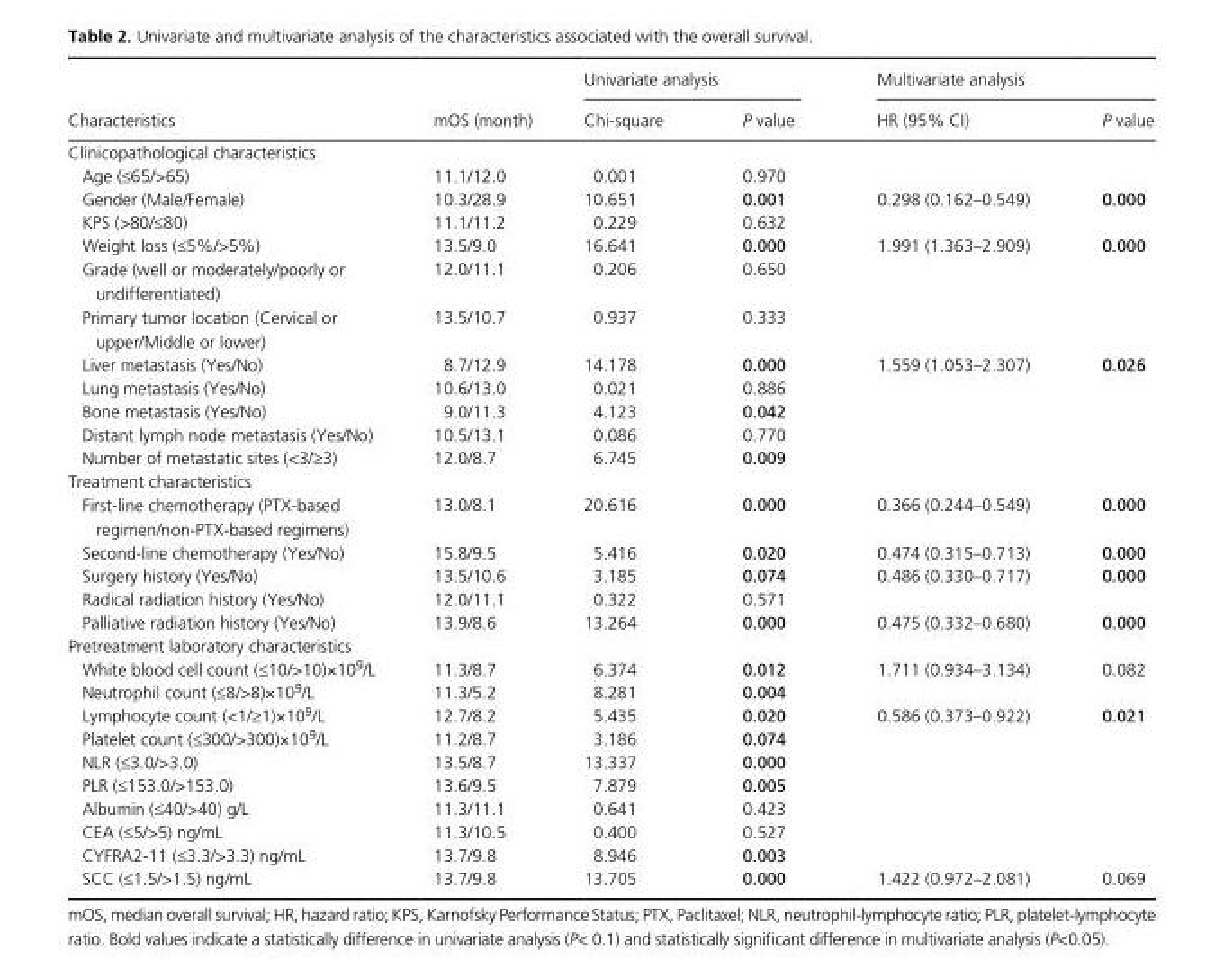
<table><thead><tr><td rowspan="2">Characteristics</td><td rowspan="2">mOS (month)</td><td colspan="2">Univariate analysis</td><td colspan="2">Multivariate analysis</td></tr><tr><td>Chi- square</td><td>P value</td><td>HR (95% CI)</td><td>P value</td></tr></thead><tbody><tr><td colspan="6">Clinicopathological characteristics</td></tr><tr><td>Age (≤65/&gt;65)</td><td>11.1/12.0</td><td>0.001</td><td>0.970</td><td></td><td></td></tr><tr><td>Gender (Male/Female)</td><td>10.3/28.9</td><td>10.651</td><td>0.001</td><td>0.298 (0.162–0.549)</td><td>0.000</td></tr><tr><td>KPS (&gt;80/≤80)</td><td>11.1/11.2</td><td>0.229</td><td>0.632</td><td></td><td></td></tr><tr><td>Weight loss (≤5%/&gt;5%)</td><td>13.5/9.0</td><td>16.641</td><td>0.000</td><td>1.991 (1.363–2.909)</td><td>0.000</td></tr><tr><td>Grade (well or moderately/poorly or undifferentiated)</td><td>12.0/11.1</td><td>0.206</td><td>0.650</td><td></td><td></td></tr><tr><td>Primary tumor location (Cervical or upper/Middle or lower)</td><td>13.5/10.7</td><td>0.937</td><td>0.333</td><td></td><td></td></tr><tr><td>Liver metastasis (Yes/No)</td><td>8.7/12.9</td><td>14.178</td><td>0.000</td><td>1.559 (1.053–2.307)</td><td>0.026</td></tr><tr><td>Lung metastasis (Yes/No)</td><td>10.6/13.0</td><td>0.021</td><td>0.886</td><td></td><td></td></tr><tr><td>Bone metastasis (Yes/No)</td><td>9.0/11.3</td><td>4.123</td><td>0.042</td><td></td><td></td></tr><tr><td>Distant lymph node metastasis (Yes/No)</td><td>10.5/13.1</td><td>0.086</td><td>0.770</td><td></td><td></td></tr><tr><td>Number of metastatic sites (&lt;3/≥3)</td><td>12.0/8.7</td><td>6.745</td><td>0.009</td><td></td><td></td></tr><tr><td colspan="6">Treatment characteristics</td></tr><tr><td>First- line chemotherapy (PTX- based regimen/non- PTX- based regimens)</td><td>13.0/8.1</td><td>20.616</td><td>0.000</td><td>0.366 (0.244–0.549)</td><td>0.000</td></tr><tr><td>Second- line chemotherapy (Yes/No)</td><td>15.8/9.5</td><td>5.416</td><td>0.020</td><td>0.474 (0.315–0.713)</td><td>0.000</td></tr><tr><td>Surgery history (Yes/No)</td><td>13.5/10.6</td><td>3.185</td><td>0.074</td><td>0.486 (0.330–0.717)</td><td>0.000</td></tr><tr><td>Radical radiation history (Yes/No)</td><td>12.0/11.1</td><td>0.322</td><td>0.571</td><td></td><td></td></tr><tr><td>Palliative radiation history (Yes/No)</td><td>13.9/8.6</td><td>13.264</td><td>0.000</td><td>0.475 (0.332–0.680)</td><td>0.000</td></tr><tr><td colspan="6">Pretreatment laboratory characteristics</td></tr><tr><td>White blood cell count (≤10/&gt;10)×10<sup>9</sup>/L</td><td>11.3/8.7</td><td>6.374</td><td>0.012</td><td>1.711 (0.934–3.134)</td><td>0.082</td></tr><tr><td>Neutrophil count (≤8/&gt;8)×10<sup>9</sup>/L</td><td>11.3/5.2</td><td>8.281</td><td>0.004</td><td></td><td></td></tr><tr><td>Lymphocyte count (&lt;1/≥1)×10<sup>9</sup>/L</td><td>12.7/8.2</td><td>5.435</td><td>0.020</td><td>0.586 (0.373–0.922)</td><td>0.021</td></tr><tr><td>Platelet count (≤300/&gt;300)×10<sup>9</sup>/L</td><td>11.2/8.7</td><td>3.186</td><td>0.074</td><td></td><td></td></tr><tr><td>NLR (≤3.0/&gt;3.0)</td><td>13.5/8.7</td><td>13.337</td><td>0.000</td><td></td><td></td></tr><tr><td>PLR (≤153.0/&gt;153.0)</td><td>13.6/9.5</td><td>7.879</td><td>0.005</td><td></td><td></td></tr><tr><td>Albumin (≤40/&gt;40) g/L</td><td>11.3/11.1</td><td>0.641</td><td>0.423</td><td></td><td></td></tr><tr><td>CEA (≤5/&gt;5) ng/mL</td><td>11.3/10.5</td><td>0.400</td><td>0.527</td><td></td><td></td></tr><tr><td>CYFRA2- 11 (≤3.3/&gt;3.3) ng/mL</td><td>13.7/9.8</td><td>8.946</td><td>0.003</td><td></td><td></td></tr><tr><td>SCC (≤1.5/&gt;1.5) ng/mL</td><td>13.7/9.8</td><td>13.705</td><td>0.000</td><td>1.422 (0.972–2.081)</td><td>0.069</td></tr></tbody></table>